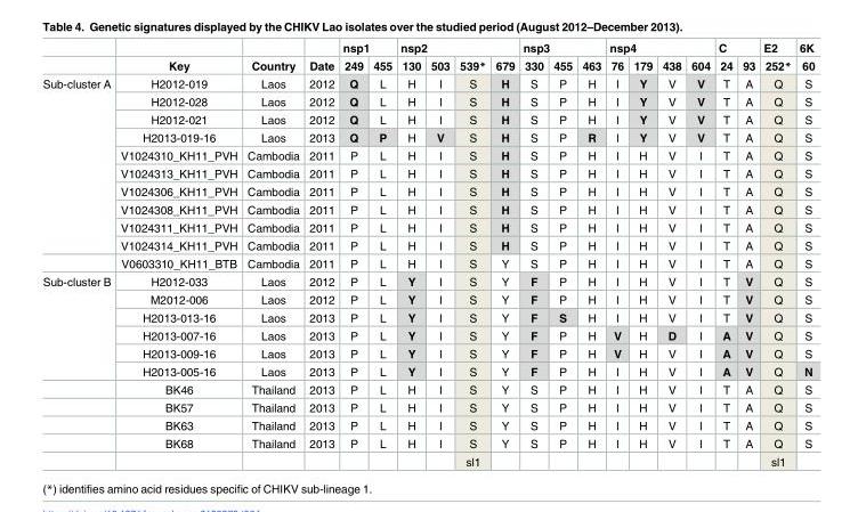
<table><thead><tr><td rowspan="2"></td><td rowspan="2">Key</td><td rowspan="2">Country</td><td rowspan="2">Date</td><td colspan="2">nsp1</td><td colspan="4">nsp2</td><td colspan="3">nsp3</td><td colspan="4">nsp4</td><td colspan="2">C</td><td rowspan="2">E2 252*</td><td rowspan="2">6K 60</td></tr><tr><td>249</td><td>455</td><td>130</td><td>503</td><td>539*</td><td>679</td><td>330</td><td>455</td><td>463</td><td>76</td><td>179</td><td>438</td><td>604</td><td>24</td><td>93</td></tr></thead><tbody><tr><td rowspan="11">Sub-cluster A</td><td>H2012-019</td><td>Laos</td><td>2012</td><td>Q</td><td>L</td><td>H</td><td>I</td><td>S</td><td>H</td><td>S</td><td>P</td><td>H</td><td>I</td><td>Y</td><td>V</td><td>V</td><td>T</td><td>A</td><td>Q</td><td>S</td></tr><tr><td>H2012-028</td><td>Laos</td><td>2012</td><td>Q</td><td>L</td><td>H</td><td>I</td><td>S</td><td>H</td><td>S</td><td>P</td><td>H</td><td>I</td><td>Y</td><td>V</td><td>V</td><td>T</td><td>A</td><td>Q</td><td>S</td></tr><tr><td>H2012-021</td><td>Laos</td><td>2012</td><td>Q</td><td>L</td><td>H</td><td>I</td><td>S</td><td>H</td><td>S</td><td>P</td><td>H</td><td>I</td><td>Y</td><td>V</td><td>V</td><td>T</td><td>A</td><td>Q</td><td>S</td></tr><tr><td>H2013-019-16</td><td>Laos</td><td>2013</td><td>Q</td><td>P</td><td>H</td><td>V</td><td>S</td><td>H</td><td>S</td><td>P</td><td>R</td><td>I</td><td>Y</td><td>V</td><td>V</td><td>T</td><td>A</td><td>Q</td><td>S</td></tr><tr><td>V1024310_KH11_PVH</td><td>Cambodia</td><td>2011</td><td>P</td><td>L</td><td>H</td><td>I</td><td>S</td><td>H</td><td>S</td><td>P</td><td>H</td><td>I</td><td>H</td><td>V</td><td>I</td><td>T</td><td>A</td><td>Q</td><td>S</td></tr><tr><td>V1024313_KH11_PVH</td><td>Cambodia</td><td>2011</td><td>P</td><td>L</td><td>H</td><td>I</td><td>S</td><td>H</td><td>S</td><td>P</td><td>H</td><td>I</td><td>H</td><td>V</td><td>I</td><td>T</td><td>A</td><td>Q</td><td>S</td></tr><tr><td>V1024306_KH11_PVH</td><td>Cambodia</td><td>2011</td><td>P</td><td>L</td><td>H</td><td>I</td><td>S</td><td>H</td><td>S</td><td>P</td><td>H</td><td>I</td><td>H</td><td>V</td><td>I</td><td>T</td><td>A</td><td>Q</td><td>S</td></tr><tr><td>V1024308_KH11_PVH</td><td>Cambodia</td><td>2011</td><td>P</td><td>L</td><td>H</td><td>I</td><td>S</td><td>H</td><td>S</td><td>P</td><td>H</td><td>I</td><td>H</td><td>V</td><td>I</td><td>T</td><td>A</td><td>Q</td><td>S</td></tr><tr><td>V1024311_KH11_PVH</td><td>Cambodia</td><td>2011</td><td>P</td><td>L</td><td>H</td><td>I</td><td>S</td><td>H</td><td>S</td><td>P</td><td>H</td><td>I</td><td>H</td><td>V</td><td>I</td><td>T</td><td>A</td><td>Q</td><td>S</td></tr><tr><td>V1024314_KH11_PVH</td><td>Cambodia</td><td>2011</td><td>P</td><td>L</td><td>H</td><td>I</td><td>S</td><td>H</td><td>S</td><td>P</td><td>H</td><td>I</td><td>H</td><td>V</td><td>I</td><td>T</td><td>A</td><td>Q</td><td>S</td></tr><tr><td>V0603310_KH11_BTB</td><td>Cambodia</td><td>2011</td><td>P</td><td>L</td><td>H</td><td>I</td><td>S</td><td>Y</td><td>S</td><td>P</td><td>H</td><td>I</td><td>H</td><td>V</td><td>I</td><td>T</td><td>A</td><td>Q</td><td>S</td></tr><tr><td rowspan="11">Sub-cluster B</td><td>H2012-033</td><td>Laos</td><td>2012</td><td>P</td><td>L</td><td>Y</td><td>I</td><td>S</td><td>Y</td><td>F</td><td>P</td><td>H</td><td>I</td><td>H</td><td>V</td><td>I</td><td>T</td><td>V</td><td>Q</td><td>S</td></tr><tr><td>M2012-006</td><td>Laos</td><td>2012</td><td>P</td><td>L</td><td>Y</td><td>I</td><td>S</td><td>Y</td><td>F</td><td>P</td><td>H</td><td>I</td><td>H</td><td>V</td><td>I</td><td>T</td><td>V</td><td>Q</td><td>S</td></tr><tr><td>H2013-013-16</td><td>Laos</td><td>2013</td><td>P</td><td>L</td><td>Y</td><td>I</td><td>S</td><td>Y</td><td>F</td><td>S</td><td>H</td><td>I</td><td>H</td><td>V</td><td>I</td><td>T</td><td>V</td><td>Q</td><td>S</td></tr><tr><td>H2013-007-16</td><td>Laos</td><td>2013</td><td>P</td><td>L</td><td>Y</td><td>I</td><td>S</td><td>Y</td><td>F</td><td>P</td><td>H</td><td>V</td><td>H</td><td>D</td><td>I</td><td>A</td><td>V</td><td>Q</td><td>S</td></tr><tr><td>H2013-009-16</td><td>Laos</td><td>2013</td><td>P</td><td>L</td><td>Y</td><td>I</td><td>S</td><td>Y</td><td>F</td><td>P</td><td>H</td><td>V</td><td>H</td><td>V</td><td>I</td><td>A</td><td>V</td><td>Q</td><td>S</td></tr><tr><td>H2013-005-16</td><td>Laos</td><td>2013</td><td>P</td><td>L</td><td>Y</td><td>I</td><td>S</td><td>Y</td><td>F</td><td>P</td><td>H</td><td>I</td><td>H</td><td>V</td><td>I</td><td>A</td><td>V</td><td>Q</td><td>N</td></tr><tr><td>BK46</td><td>Thailand</td><td>2013</td><td>P</td><td>L</td><td>H</td><td>I</td><td>S</td><td>Y</td><td>S</td><td>P</td><td>H</td><td>I</td><td>H</td><td>V</td><td>I</td><td>T</td><td>A</td><td>Q</td><td>S</td></tr><tr><td>BK57</td><td>Thailand</td><td>2013</td><td>P</td><td>L</td><td>H</td><td>I</td><td>S</td><td>Y</td><td>S</td><td>P</td><td>H</td><td>I</td><td>H</td><td>V</td><td>I</td><td>T</td><td>A</td><td>Q</td><td>S</td></tr><tr><td>BK63</td><td>Thailand</td><td>2013</td><td>P</td><td>L</td><td>H</td><td>I</td><td>S</td><td>Y</td><td>S</td><td>P</td><td>H</td><td>I</td><td>H</td><td>V</td><td>I</td><td>T</td><td>A</td><td>Q</td><td>S</td></tr><tr><td>BK68</td><td>Thailand</td><td>2013</td><td>P</td><td>L</td><td>H</td><td>I</td><td>S</td><td>Y</td><td>S</td><td>P</td><td>H</td><td>I</td><td>H</td><td>V</td><td>I</td><td>T</td><td>A</td><td>Q</td><td>S</td></tr><tr><td></td><td></td><td></td><td></td><td></td><td></td><td></td><td>sl1</td><td></td><td></td><td></td><td></td><td></td><td></td><td></td><td></td><td></td><td></td><td>sl1</td><td></td></tr></tbody></table>